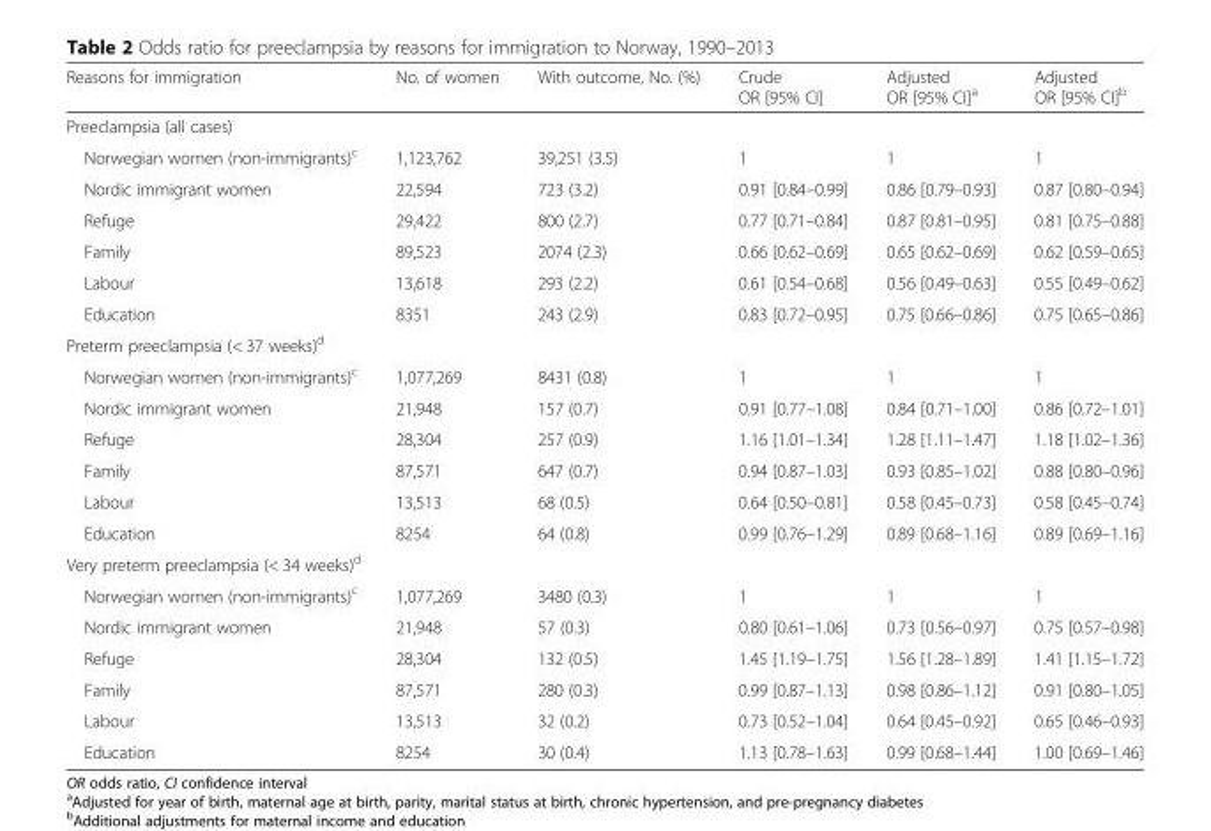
<table><thead><tr><td>Reasons for immigration</td><td>No. of women</td><td>With outcome, No. (%)</td><td>Crude OR [95% CI]</td><td>Adjusted OR [95% CI]<sup>a</sup></td><td>Adjusted OR [95% CI]<sup>b</sup></td></tr></thead><tbody><tr><td colspan="6">Preeclampsia (all cases)</td></tr><tr><td>Norwegian women (non-immigrants)<sup>c</sup></td><td>1,123,762</td><td>39,251 (3.5)</td><td>1</td><td>1</td><td>1</td></tr><tr><td>Nordic immigrant women</td><td>22,594</td><td>723 (3.2)</td><td>0.91 [0.84–0.99]</td><td>0.86 [0.79–0.93]</td><td>0.87 [0.80–0.94]</td></tr><tr><td>Refuge</td><td>29,422</td><td>800 (2.7)</td><td>0.77 [0.71–0.84]</td><td>0.87 [0.81–0.95]</td><td>0.81 [0.75–0.88]</td></tr><tr><td>Family</td><td>89,523</td><td>2074 (2.3)</td><td>0.66 [0.62–0.69]</td><td>0.65 [0.62–0.69]</td><td>0.62 [0.59–0.65]</td></tr><tr><td>Labour</td><td>13,618</td><td>293 (2.2)</td><td>0.61 [0.54–0.68]</td><td>0.56 [0.49–0.63]</td><td>0.55 [0.49–0.62]</td></tr><tr><td>Education</td><td>8351</td><td>243 (2.9)</td><td>0.83 [0.72–0.95]</td><td>0.75 [0.66–0.86]</td><td>0.75 [0.65–0.86]</td></tr><tr><td colspan="6">Preterm preeclampsia (&lt; 37 weeks)<sup>d</sup></td></tr><tr><td>Norwegian women (non-immigrants)<sup>c</sup></td><td>1,077,269</td><td>8431 (0.8)</td><td>1</td><td>1</td><td>1</td></tr><tr><td>Nordic immigrant women</td><td>21,948</td><td>157 (0.7)</td><td>0.91 [0.77–1.08]</td><td>0.84 [0.71–1.00]</td><td>0.86 [0.72–1.01]</td></tr><tr><td>Refuge</td><td>28,304</td><td>257 (0.9)</td><td>1.16 [1.01–1.34]</td><td>1.28 [1.11–1.47]</td><td>1.18 [1.02–1.36]</td></tr><tr><td>Family</td><td>87,571</td><td>647 (0.7)</td><td>0.94 [0.87–1.03]</td><td>0.93 [0.85–1.02]</td><td>0.88 [0.80–0.96]</td></tr><tr><td>Labour</td><td>13,513</td><td>68 (0.5)</td><td>0.64 [0.50–0.81]</td><td>0.58 [0.45–0.73]</td><td>0.58 [0.45–0.74]</td></tr><tr><td>Education</td><td>8254</td><td>64 (0.8)</td><td>0.99 [0.76–1.29]</td><td>0.89 [0.68–1.16]</td><td>0.89 [0.69–1.16]</td></tr><tr><td colspan="6">Very preterm preeclampsia (&lt; 34 weeks)<sup>d</sup></td></tr><tr><td>Norwegian women (non-immigrants)<sup>c</sup></td><td>1,077,269</td><td>3480 (0.3)</td><td>1</td><td>1</td><td>1</td></tr><tr><td>Nordic immigrant women</td><td>21,948</td><td>57 (0.3)</td><td>0.80 [0.61–1.06]</td><td>0.73 [0.56–0.97]</td><td>0.75 [0.57–0.98]</td></tr><tr><td>Refuge</td><td>28,304</td><td>132 (0.5)</td><td>1.45 [1.19–1.75]</td><td>1.56 [1.28–1.89]</td><td>1.41 [1.15–1.72]</td></tr><tr><td>Family</td><td>87,571</td><td>280 (0.3)</td><td>0.99 [0.87–1.13]</td><td>0.98 [0.86–1.12]</td><td>0.91 [0.80–1.05]</td></tr><tr><td>Labour</td><td>13,513</td><td>32 (0.2)</td><td>0.73 [0.52–1.04]</td><td>0.64 [0.45–0.92]</td><td>0.65 [0.46–0.93]</td></tr><tr><td>Education</td><td>8254</td><td>30 (0.4)</td><td>1.13 [0.78–1.63]</td><td>0.99 [0.68–1.44]</td><td>1.00 [0.69–1.46]</td></tr></tbody></table>